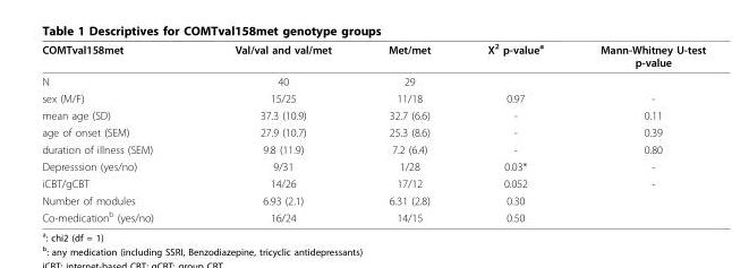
<table><thead><tr><td>COMTval158met</td><td>Val/val and val/met</td><td>Met/met</td><td>X<sup>2</sup> p-value<sup>a</sup></td><td>Mann-Whitney U-test p-value</td></tr></thead><tbody><tr><td>N</td><td>40</td><td>29</td><td></td><td></td></tr><tr><td>sex (M/F)</td><td>15/25</td><td>11/18</td><td>0.97</td><td>-</td></tr><tr><td>mean age (SD)</td><td>37.3 (10.9)</td><td>32.7 (6.6)</td><td>-</td><td>0.11</td></tr><tr><td>age of onset (SEM)</td><td>27.9 (10.7)</td><td>25.3 (8.6)</td><td>-</td><td>0.39</td></tr><tr><td>duration of illness (SEM)</td><td>9.8 (11.9)</td><td>7.2 (6.4)</td><td>-</td><td>0.80</td></tr><tr><td>Depresssion (yes/no)</td><td>9/31</td><td>1/28</td><td>0.03*</td><td>-</td></tr><tr><td>iCBT/gCBT</td><td>14/26</td><td>17/12</td><td>0.052</td><td>-</td></tr><tr><td>Number of modules</td><td>6.93 (2.1)</td><td>6.31 (2.8)</td><td>0.30</td><td></td></tr><tr><td>Co-medication<sup>b</sup> (yes/no)</td><td>16/24</td><td>14/15</td><td>0.50</td><td></td></tr></tbody></table>